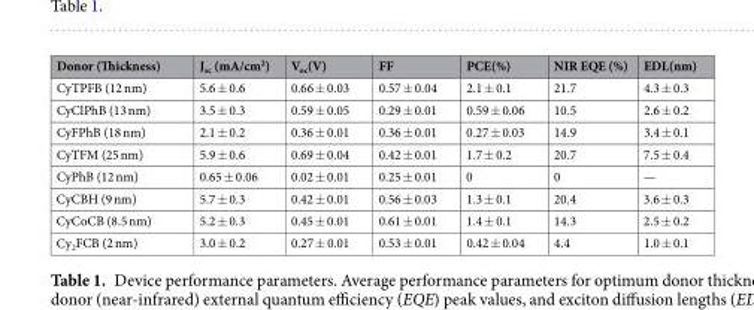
<table><thead><tr><td>Donor (Thickness)</td><td>J<sub>sc</sub> (mA/cm<sup>2</sup>)</td><td>V<sub>oc</sub>(V)</td><td>FF</td><td>PCE(%)</td><td>NIR EQE (%)</td><td>EDL(nm)</td></tr></thead><tbody><tr><td>CyTPFB (12 nm)</td><td>5.6 ± 0.6</td><td>0.66 ± 0.03</td><td>0.57 ± 0.04</td><td>2.1 ± 0.1</td><td>21.7</td><td>4.3 ± 0.3</td></tr><tr><td>CyClPhB (13 nm)</td><td>3.5 ± 0.3</td><td>0.59 ± 0.05</td><td>0.29 ± 0.01</td><td>0.59 ± 0.06</td><td>10.5</td><td>2.6 ± 0.2</td></tr><tr><td>CyFPhB (18 nm)</td><td>2.1 ± 0.2</td><td>0.36 ± 0.01</td><td>0.36 ± 0.01</td><td>0.27 ± 0.03</td><td>14.9</td><td>3.4 ± 0.1</td></tr><tr><td>CyTFM (25 nm)</td><td>5.9 ± 0.6</td><td>0.69 ± 0.04</td><td>0.42 ± 0.01</td><td>1.7 ± 0.2</td><td>20.7</td><td>7.5 ± 0.4</td></tr><tr><td>CyPhB (12 nm)</td><td>0.65 ± 0.06</td><td>0.02 ± 0.01</td><td>0.25 ± 0.01</td><td>0</td><td>0</td><td>—</td></tr><tr><td>CyCBH (9 nm)</td><td>5.7 ± 0.3</td><td>0.42 ± 0.01</td><td>0.56 ± 0.03</td><td>1.3 ± 0.1</td><td>20.4</td><td>3.6 ± 0.3</td></tr><tr><td>CyCoCB (8.5 nm)</td><td>5.2 ± 0.3</td><td>0.45 ± 0.01</td><td>0.61 ± 0.01</td><td>1.4 ± 0.1</td><td>14.3</td><td>2.5 ± 0.2</td></tr><tr><td>Cy<sub>2</sub>FCB (2 nm)</td><td>3.0 ± 0.2</td><td>0.27 ± 0.01</td><td>0.53 ± 0.01</td><td>0.42 ± 0.04</td><td>4.4</td><td>1.0 ± 0.1</td></tr></tbody></table>